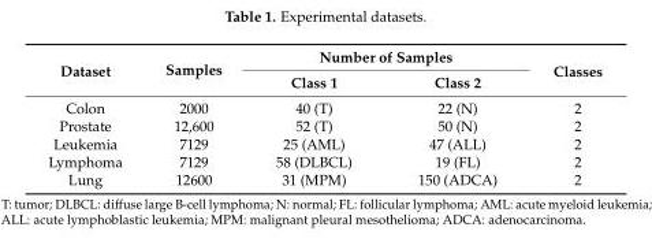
<table><thead><tr><td rowspan="2">Dataset</td><td rowspan="2">Samples</td><td colspan="2">Number of Samples</td><td rowspan="2">Classes</td></tr><tr><td>Class 1</td><td>Class 2</td></tr></thead><tbody><tr><td>Colon</td><td>2000</td><td>40 (T)</td><td>22 (N)</td><td>2</td></tr><tr><td>Prostate</td><td>12,600</td><td>52 (T)</td><td>50 (N)</td><td>2</td></tr><tr><td>Leukemia</td><td>7129</td><td>25 (AML)</td><td>47 (ALL)</td><td>2</td></tr><tr><td>Lymphoma</td><td>7129</td><td>58 (DLBCL)</td><td>19 (FL)</td><td>2</td></tr><tr><td>Lung</td><td>12600</td><td>31 (MPM)</td><td>150 (ADCA)</td><td>2</td></tr></tbody></table>